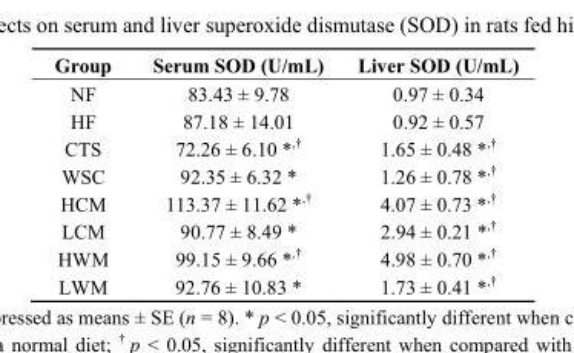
<table><thead><tr><td>Group</td><td>Serum SOD (U/mL)</td><td>Liver SOD (U/mL)</td></tr></thead><tbody><tr><td>NF</td><td>83.43 ± 9.78</td><td>0.97 ± 0.34</td></tr><tr><td>HF</td><td>87.18 ± 14.01</td><td>0.92 ± 0.57</td></tr><tr><td>CTS</td><td>72.26 ± 6.10 *,†</td><td>1.65 ± 0.48 *,†</td></tr><tr><td>WSC</td><td>92.35 ± 6.32 *</td><td>1.26 ± 0.78 *,†</td></tr><tr><td>HCM</td><td>113.37 ± 11.62 *,†</td><td>4.07 ± 0.73 *,†</td></tr><tr><td>LCM</td><td>90.77 ± 8.49 *</td><td>2.94 ± 0.21 *,†</td></tr><tr><td>HWM</td><td>99.15 ± 9.66 *,†</td><td>4.98 ± 0.70 *,†</td></tr><tr><td>LWM</td><td>92.76 ± 10.83 *</td><td>1.73 ± 0.41 *,†</td></tr></tbody></table>